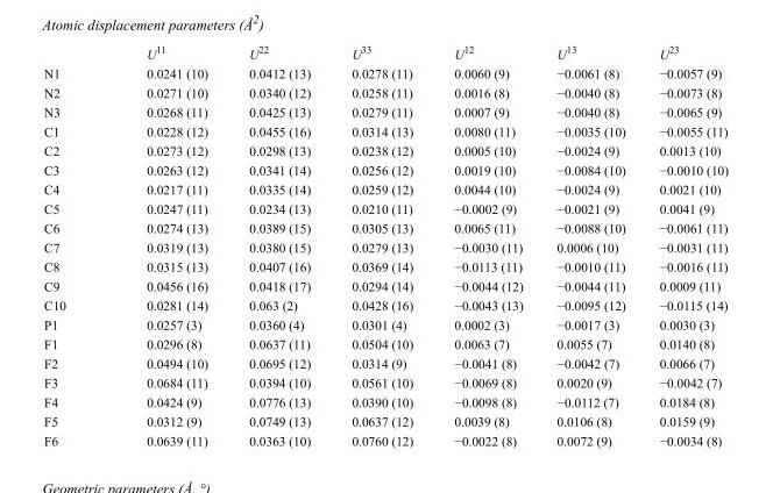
<table><thead><tr><td></td><td>U<sup>11</sup></td><td>U<sup>22</sup></td><td>U<sup>33</sup></td><td>U<sup>12</sup></td><td>U<sup>13</sup></td><td>U<sup>23</sup></td></tr></thead><tbody><tr><td>N1</td><td>0.0241 (10)</td><td>0.0412 (13)</td><td>0.0278 (11)</td><td>0.0060 (9)</td><td>−0.0061 (8)</td><td>−0.0057 (9)</td></tr><tr><td>N2</td><td>0.0271 (10)</td><td>0.0340 (12)</td><td>0.0258 (11)</td><td>0.0016 (8)</td><td>−0.0040 (8)</td><td>−0.0073 (8)</td></tr><tr><td>N3</td><td>0.0268 (11)</td><td>0.0425 (13)</td><td>0.0279 (11)</td><td>0.0007 (9)</td><td>−0.0040 (8)</td><td>−0.0065 (9)</td></tr><tr><td>C1</td><td>0.0228 (12)</td><td>0.0455 (16)</td><td>0.0314 (13)</td><td>0.0080 (11)</td><td>−0.0035 (10)</td><td>−0.0055 (11)</td></tr><tr><td>C2</td><td>0.0273 (12)</td><td>0.0298 (13)</td><td>0.0238 (12)</td><td>0.0005 (10)</td><td>−0.0024 (9)</td><td>0.0013 (10)</td></tr><tr><td>C3</td><td>0.0263 (12)</td><td>0.0341 (14)</td><td>0.0256 (12)</td><td>0.0019 (10)</td><td>−0.0084 (10)</td><td>−0.0010 (10)</td></tr><tr><td>C4</td><td>0.0217 (11)</td><td>0.0335 (14)</td><td>0.0259 (12)</td><td>0.0044 (10)</td><td>−0.0024 (9)</td><td>0.0021 (10)</td></tr><tr><td>C5</td><td>0.0247 (11)</td><td>0.0234 (13)</td><td>0.0210 (11)</td><td>−0.0002 (9)</td><td>−0.0021 (9)</td><td>0.0041 (9)</td></tr><tr><td>C6</td><td>0.0274 (13)</td><td>0.0389 (15)</td><td>0.0305 (13)</td><td>0.0065 (11)</td><td>−0.0088 (10)</td><td>−0.0061 (11)</td></tr><tr><td>C7</td><td>0.0319 (13)</td><td>0.0380 (15)</td><td>0.0279 (13)</td><td>−0.0030 (11)</td><td>0.0006 (10)</td><td>−0.0031 (11)</td></tr><tr><td>C8</td><td>0.0315 (13)</td><td>0.0407 (16)</td><td>0.0369 (14)</td><td>−0.0113 (11)</td><td>−0.0010 (11)</td><td>−0.0016 (11)</td></tr><tr><td>C9</td><td>0.0456 (16)</td><td>0.0418 (17)</td><td>0.0294 (14)</td><td>−0.0044 (12)</td><td>−0.0044 (11)</td><td>0.0009 (11)</td></tr><tr><td>C10</td><td>0.0281 (14)</td><td>0.063 (2)</td><td>0.0428 (16)</td><td>−0.0043 (13)</td><td>−0.0095 (12)</td><td>−0.0115 (14)</td></tr><tr><td>P1</td><td>0.0257 (3)</td><td>0.0360 (4)</td><td>0.0301 (4)</td><td>0.0002 (3)</td><td>−0.0017 (3)</td><td>0.0030 (3)</td></tr><tr><td>F1</td><td>0.0296 (8)</td><td>0.0637 (11)</td><td>0.0504 (10)</td><td>0.0063 (7)</td><td>0.0055 (7)</td><td>0.0140 (8)</td></tr><tr><td>F2</td><td>0.0494 (10)</td><td>0.0695 (12)</td><td>0.0314 (9)</td><td>−0.0041 (8)</td><td>−0.0042 (7)</td><td>0.0066 (7)</td></tr><tr><td>F3</td><td>0.0684 (11)</td><td>0.0394 (10)</td><td>0.0561 (10)</td><td>−0.0069 (8)</td><td>0.0020 (9)</td><td>−0.0042 (7)</td></tr><tr><td>F4</td><td>0.0424 (9)</td><td>0.0776 (13)</td><td>0.0390 (10)</td><td>−0.0098 (8)</td><td>−0.0112 (7)</td><td>0.0184 (8)</td></tr><tr><td>F5</td><td>0.0312 (9)</td><td>0.0749 (13)</td><td>0.0637 (12)</td><td>0.0039 (8)</td><td>0.0106 (8)</td><td>0.0159 (9)</td></tr><tr><td>F6</td><td>0.0639 (11)</td><td>0.0363 (10)</td><td>0.0760 (12)</td><td>−0.0022 (8)</td><td>0.0072 (9)</td><td>−0.0034 (8)</td></tr></tbody></table>